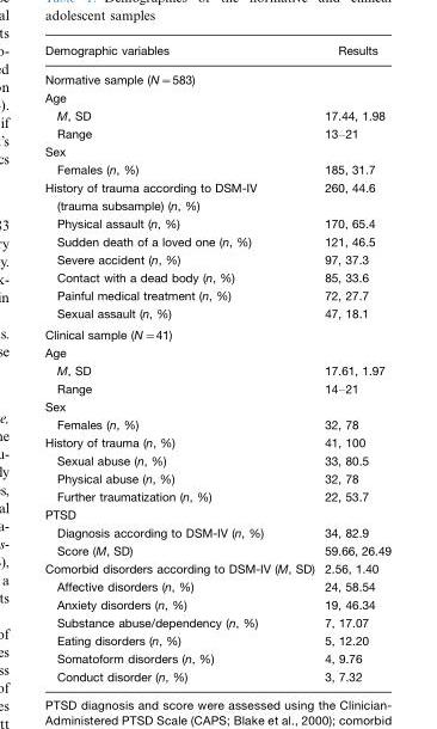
<table><thead><tr><td>Demographic variables</td><td>Results</td></tr></thead><tbody><tr><td colspan="2">Normative sample (N=583)</td></tr><tr><td>Age M, SD Range</td><td>17.44, 1.98 13–21</td></tr><tr><td>Sex Females (n, %)</td><td>185, 31.7</td></tr><tr><td>History of trauma according to DSM-IV (trauma subsample) (n, %) Physical assault (n, %) Sudden death of a loved one (n, %) Severe accident (n, %) Contact with a dead body (n, %) Painful medical treatment (n, %) Sexual assault (n, %)</td><td>260, 44.6 170, 65.4 121, 46.5 97, 37.3 85, 33.6 72, 27.7 47, 18.1</td></tr><tr><td colspan="2">Clinical sample (N=41)</td></tr><tr><td>Age M, SD Range</td><td>17.61, 1.97 14–21</td></tr><tr><td>Sex Females (n, %)</td><td>32, 78</td></tr><tr><td>History of trauma (n, %) Sexual abuse (n, %) Physical abuse (n, %) Further traumatization (n, %)</td><td>41, 100 33, 80.5 32, 78 22, 53.7</td></tr><tr><td>PTSD Diagnosis according to DSM-IV (n, %) Score (M, SD)</td><td>34, 82.9 59.66, 26.49</td></tr><tr><td>Comorbid disorders according to DSM-IV (M, SD)</td><td>2.56, 1.40</td></tr><tr><td>Affective disorders (n, %) Anxiety disorders (n, %) Substance abuse/dependency (n, %) Eating disorders (n, %) Somatoform disorders (n, %) Conduct disorder (n, %)</td><td>24, 58.54 19, 46.34 7, 17.07 5, 12.20 4, 9.76 3, 7.32</td></tr></tbody></table>